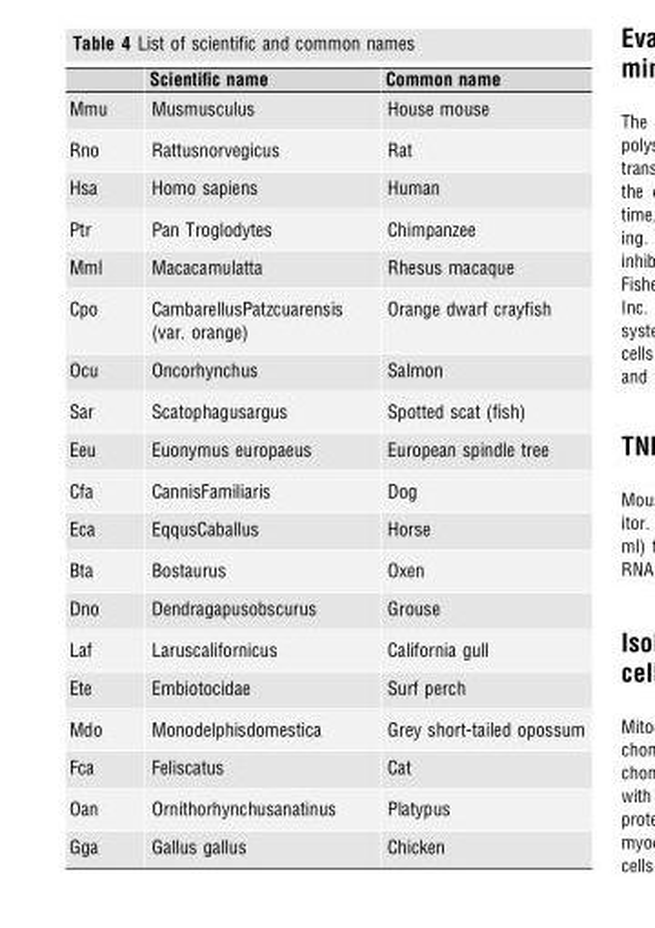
<table><thead><tr><td></td><td>Scientific name</td><td>Common name</td></tr></thead><tbody><tr><td>Mmu</td><td>Musmusculus</td><td>House mouse</td></tr><tr><td>Rno</td><td>Rattusnorvegicus</td><td>Rat</td></tr><tr><td>Hsa</td><td>Homo sapiens</td><td>Human</td></tr><tr><td>Ptr</td><td>Pan Troglodytes</td><td>Chimpanzee</td></tr><tr><td>Mml</td><td>Macacamulatta</td><td>Rhesus macaque</td></tr><tr><td>Cpo</td><td>CambarellusPatzcuarensis (var. orange)</td><td>Orange dwarf crayfish</td></tr><tr><td>Ocu</td><td>Oncorhynchus</td><td>Salmon</td></tr><tr><td>Sar</td><td>Scatophagusargus</td><td>Spotted scat (fish)</td></tr><tr><td>Eeu</td><td>Euonymus europaeus</td><td>European spindle tree</td></tr><tr><td>Cfa</td><td>CannisFamiliaris</td><td>Dog</td></tr><tr><td>Eca</td><td>EqqusCaballus</td><td>Horse</td></tr><tr><td>Bta</td><td>Bostaurus</td><td>Oxen</td></tr><tr><td>Dno</td><td>Dendragapusobscurus</td><td>Grouse</td></tr><tr><td>Laf</td><td>Laruscalifornicus</td><td>California gull</td></tr><tr><td>Ete</td><td>Embiotocidae</td><td>Surf perch</td></tr><tr><td>Mdo</td><td>Monodelphisdomestica</td><td>Grey short-tailed opossum</td></tr><tr><td>Fca</td><td>Feliscatus</td><td>Cat</td></tr><tr><td>Oan</td><td>Ornithorhynchusanatinus</td><td>Platypus</td></tr><tr><td>Gga</td><td>Gallus gallus</td><td>Chicken</td></tr></tbody></table>